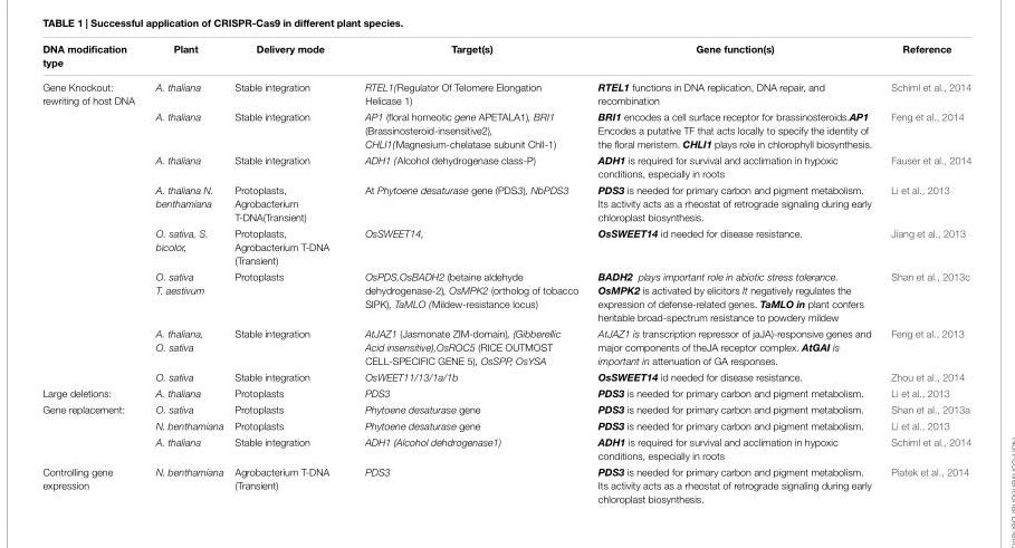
<table><thead><tr><td>DNA modification type</td><td>Plant</td><td>Delivery mode</td><td>Target(s)</td><td>Gene function(s)</td><td>Reference</td></tr></thead><tbody><tr><td rowspan="8">Gene Knockout: rewriting of host DNA</td><td>A. thaliana</td><td>Stable integration</td><td>RTEL1(Regulator Of Telomere Elongation Helicase 1)</td><td>RTEL1 functions in DNA replication, DNA repair, and recombination</td><td>Schiml et al., 2014</td></tr><tr><td>A. thaliana</td><td>Stable integration</td><td>AP1 (floral homeotic gene APETALA1), BRI1 (Brassinosteroid-insensitive2), CHLI1(Magnesium-chelatase subunit ChlI-1)</td><td>BRI1 encodes a cell surface receptor for brassinosteroids.AP1 Encodes a putative TF that acts locally to specify the identity of the floral meristem. CHLI1 plays role in chlorophyll biosynthesis.</td><td>Feng et al., 2014</td></tr><tr><td>A. thaliana</td><td>Stable integration</td><td>ADH1 (Alcohol dehydrogenase class-P)</td><td>ADH1 is required for survival and acclimation in hypoxic conditions, especially in roots</td><td>Fauser et al., 2014</td></tr><tr><td>A. thaliana N. benthamiana</td><td>Protoplasts, Agrobacterium T-DNA(Transient)</td><td>At Phytoene desaturase gene (PDS3), NbPDS3</td><td>PDS3 is needed for primary carbon and pigment metabolism. Its activity acts as a rheostat of retrograde signaling during early chloroplast biosynthesis.</td><td>Li et al., 2013</td></tr><tr><td>O. sativa, S. bicolor,</td><td>Protoplasts, Agrobacterium T-DNA (Transient)</td><td>OsSWEET14,</td><td>OsSWEET14 id needed for disease resistance.</td><td>Jiang et al., 2013</td></tr><tr><td>O. sativa T. aestivum</td><td>Protoplasts</td><td>OsPDS,OsBADH2 (betaine aldehyde dehydrogenase-2), OsMPK2 (ortholog of tobacco SIPK), TaMLO (Mildew-resistance locus)</td><td>BADH2 plays important role in abiotic stress tolerance. OsMPK2 is activated by elicitors It negatively regulates the expression of defense-related genes. TaMLO in plant confers heritable broad-spectrum resistance to powdery mildew</td><td>Shan et al., 2013c</td></tr><tr><td>A. thaliana, O. sativa</td><td>Stable integration</td><td>AtJAZ1 (Jasmonate ZIM-domain), (Gibberellic Acid insensitive),OsROC5 (RICE OUTMOST CELL-SPECIFIC GENE 5), OsSPP, OsYSA</td><td>AtJAZ1 is transcription repressor of jaJA)-responsive genes and major components of theJA receptor complex. AtGAI is important in attenuation of GA responses.</td><td>Feng et al., 2013</td></tr><tr><td>O. sativa</td><td>Stable integration</td><td>OsWEET11/13/1a/1b</td><td>OsSWEET14 id needed for disease resistance.</td><td>Zhou et al., 2014</td></tr><tr><td>Large deletions:</td><td>A. thaliana</td><td>Protoplasts</td><td>PDS3</td><td>PDS3 is needed for primary carbon and pigment metabolism.</td><td>Li et al., 2013</td></tr><tr><td rowspan="3">Gene replacement:</td><td>O. sativa</td><td>Protoplasts</td><td>Phytoene desaturase gene</td><td>PDS3 is needed for primary carbon and pigment metabolism.</td><td>Shan et al., 2013a</td></tr><tr><td>N. benthamiana</td><td>Protoplasts</td><td>Phytoene desaturase gene</td><td>PDS3 is needed for primary carbon and pigment metabolism.</td><td>Li et al., 2013</td></tr><tr><td>A. thaliana</td><td>Stable integration</td><td>ADH1 (Alcohol dehdrogenase1)</td><td>ADH1 is required for survival and acclimation in hypoxic conditions, especially in roots</td><td>Schiml et al., 2014</td></tr><tr><td>Controlling gene expression</td><td>N. benthamiana</td><td>Agrobacterium T-DNA (Transient)</td><td>PDS3</td><td>PDS3 is needed for primary carbon and pigment metabolism. Its activity acts as a rheostat of retrograde signaling during early chloroplast biosynthesis.</td><td>Piatek et al., 2014</td></tr></tbody></table>